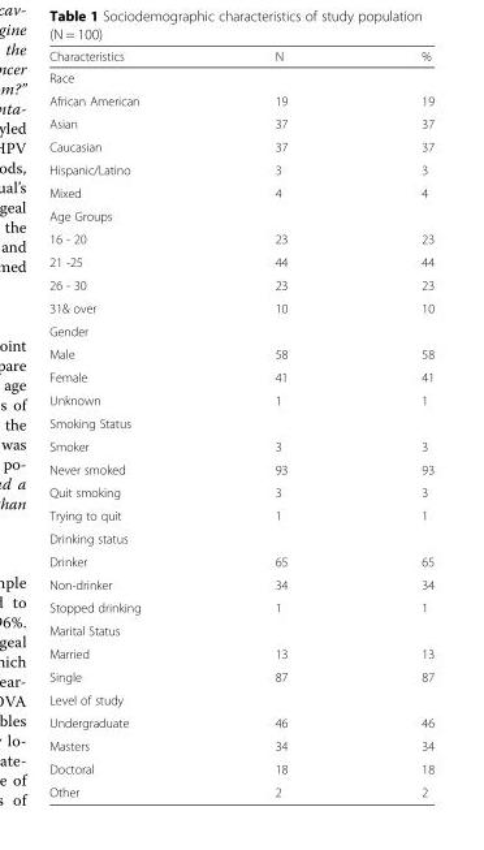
<table><thead><tr><td>Characteristics</td><td>N</td><td>%</td></tr></thead><tbody><tr><td colspan="3">Race</td></tr><tr><td>African American</td><td>19</td><td>19</td></tr><tr><td>Asian</td><td>37</td><td>37</td></tr><tr><td>Caucasian</td><td>37</td><td>37</td></tr><tr><td>Hispanic/Latino</td><td>3</td><td>3</td></tr><tr><td>Mixed</td><td>4</td><td>4</td></tr><tr><td colspan="3">Age Groups</td></tr><tr><td>16 - 20</td><td>23</td><td>23</td></tr><tr><td>21 -25</td><td>44</td><td>44</td></tr><tr><td>26 - 30</td><td>23</td><td>23</td></tr><tr><td>31&amp; over</td><td>10</td><td>10</td></tr><tr><td colspan="3">Gender</td></tr><tr><td>Male</td><td>58</td><td>58</td></tr><tr><td>Female</td><td>41</td><td>41</td></tr><tr><td>Unknown</td><td>1</td><td>1</td></tr><tr><td colspan="3">Smoking Status</td></tr><tr><td>Smoker</td><td>3</td><td>3</td></tr><tr><td>Never smoked</td><td>93</td><td>93</td></tr><tr><td>Quit smoking</td><td>3</td><td>3</td></tr><tr><td>Trying to quit</td><td>1</td><td>1</td></tr><tr><td colspan="3">Drinking status</td></tr><tr><td>Drinker</td><td>65</td><td>65</td></tr><tr><td>Non-drinker</td><td>34</td><td>34</td></tr><tr><td>Stopped drinking</td><td>1</td><td>1</td></tr><tr><td colspan="3">Marital Status</td></tr><tr><td>Married</td><td>13</td><td>13</td></tr><tr><td>Single</td><td>87</td><td>87</td></tr><tr><td colspan="3">Level of study</td></tr><tr><td>Undergraduate</td><td>46</td><td>46</td></tr><tr><td>Masters</td><td>34</td><td>34</td></tr><tr><td>Doctoral</td><td>18</td><td>18</td></tr><tr><td>Other</td><td>2</td><td>2</td></tr></tbody></table>